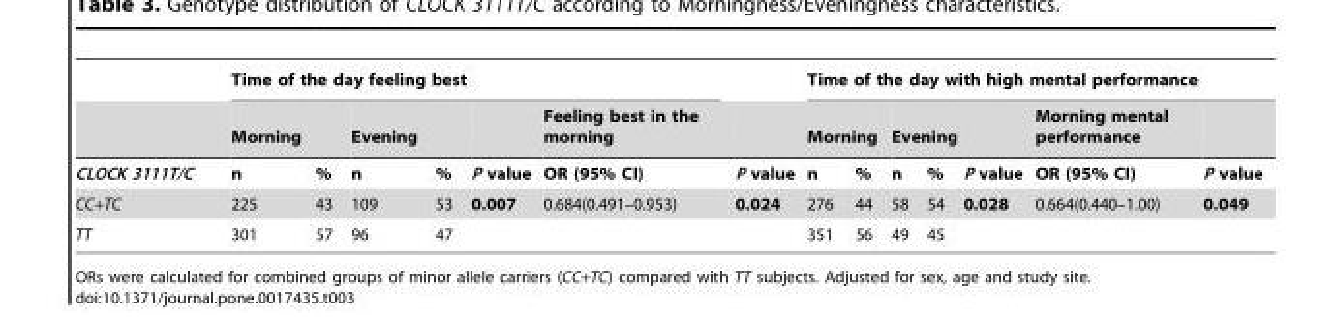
<table><thead><tr><td rowspan="3">CLOCK 3111T/C</td><td colspan="6">Time of the day feeling best</td><td rowspan="3">P value</td><td colspan="7">Time of the day with high mental performance</td></tr><tr><td rowspan="2">Morning n</td><td rowspan="2">%</td><td rowspan="2">Evening n</td><td rowspan="2">%</td><td rowspan="2">P value</td><td rowspan="2">Feeling best in the morning OR (95% CI)</td><td colspan="2">Morning</td><td colspan="3">Evening</td><td rowspan="2">Morning mental performance OR (95% CI)</td><td rowspan="2">P value</td></tr><tr><td>n</td><td>%</td><td>n</td><td>%</td><td>P value</td></tr></thead><tbody><tr><td>CC+TC</td><td>225</td><td>43</td><td>109</td><td>53</td><td>0.007</td><td>0.684(0.491–0.953)</td><td>0.024</td><td>276</td><td>44</td><td>58</td><td>54</td><td>0.028</td><td>0.664(0.440–1.00)</td><td>0.049</td></tr><tr><td>TT</td><td>301</td><td>57</td><td>96</td><td>47</td><td></td><td></td><td></td><td>351</td><td>56</td><td>49</td><td>45</td><td></td><td></td><td></td></tr></tbody></table>